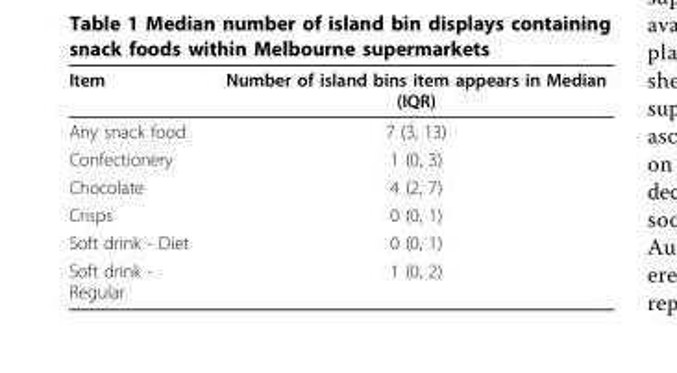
<table><thead><tr><td>Item</td><td>Number of island bins item appears in Median (IQR)</td></tr></thead><tbody><tr><td>Any snack food</td><td>7 (3, 13)</td></tr><tr><td>Confectionery</td><td>1 (0, 3)</td></tr><tr><td>Chocolate</td><td>4 (2, 7)</td></tr><tr><td>Crisps</td><td>0 (0, 1)</td></tr><tr><td>Soft drink - Diet</td><td>0 (0, 1)</td></tr><tr><td>Soft drink - Regular</td><td>1 (0, 2)</td></tr></tbody></table>